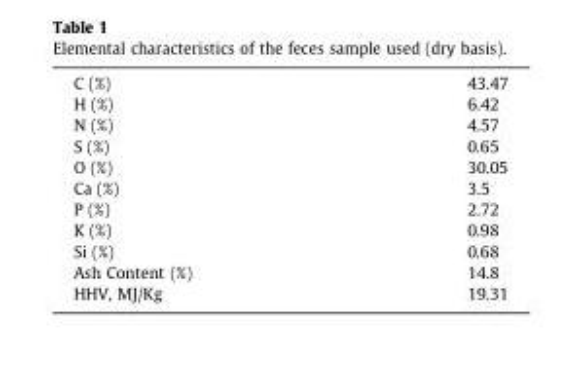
<table><tbody><tr><td>C (%)</td><td>43.47</td></tr><tr><td>H (%)</td><td>6.42</td></tr><tr><td>N (%)</td><td>4.57</td></tr><tr><td>S (%)</td><td>0.65</td></tr><tr><td>O (%)</td><td>30.05</td></tr><tr><td>Ca (%)</td><td>3.5</td></tr><tr><td>P (%)</td><td>2.72</td></tr><tr><td>K (%)</td><td>0.98</td></tr><tr><td>Si (%)</td><td>0.68</td></tr><tr><td>Ash Content (%)</td><td>14.8</td></tr><tr><td>HHV, MJ/Kg</td><td>19.31</td></tr></tbody></table>